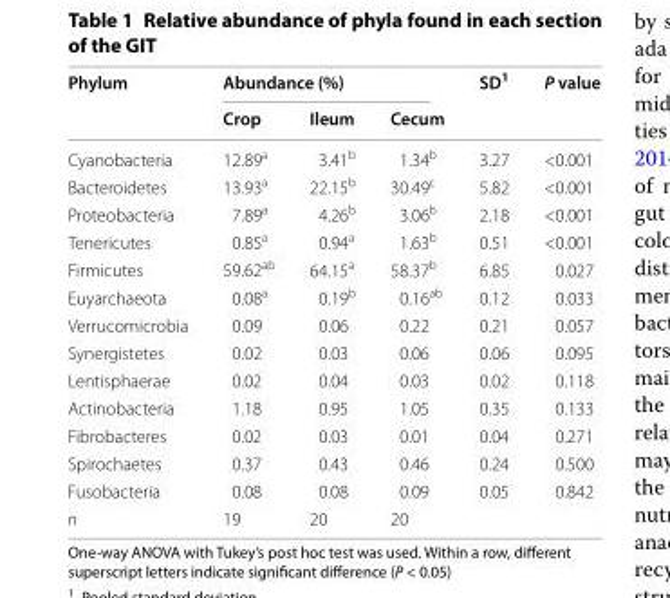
<table><thead><tr><td rowspan="2">Phylum</td><td colspan="3">Abundance (%)</td><td rowspan="2">SD<sup>1</sup></td><td rowspan="2">P value</td></tr><tr><td>Crop</td><td>Ileum</td><td>Cecum</td></tr></thead><tbody><tr><td>Cyanobacteria</td><td>12.89<sup>a</sup></td><td>3.41<sup>b</sup></td><td>1.34<sup>b</sup></td><td>3.27</td><td>&lt;0.001</td></tr><tr><td>Bacteroidetes</td><td>13.93<sup>a</sup></td><td>22.15<sup>b</sup></td><td>30.49<sup>c</sup></td><td>5.82</td><td>&lt;0.001</td></tr><tr><td>Proteobacteria</td><td>7.89<sup>a</sup></td><td>4.26<sup>b</sup></td><td>3.06<sup>b</sup></td><td>2.18</td><td>&lt;0.001</td></tr><tr><td>Tenericutes</td><td>0.85<sup>a</sup></td><td>0.94<sup>a</sup></td><td>1.63<sup>b</sup></td><td>0.51</td><td>&lt;0.001</td></tr><tr><td>Firmicutes</td><td>59.62<sup>ab</sup></td><td>64.15<sup>a</sup></td><td>58.37<sup>b</sup></td><td>6.85</td><td>0.027</td></tr><tr><td>Euyarchaeota</td><td>0.08<sup>a</sup></td><td>0.19<sup>b</sup></td><td>0.16<sup>ab</sup></td><td>0.12</td><td>0.033</td></tr><tr><td>Verrucomicrobia</td><td>0.09</td><td>0.06</td><td>0.22</td><td>0.21</td><td>0.057</td></tr><tr><td>Synergistetes</td><td>0.02</td><td>0.03</td><td>0.06</td><td>0.06</td><td>0.095</td></tr><tr><td>Lentisphaerae</td><td>0.02</td><td>0.04</td><td>0.03</td><td>0.02</td><td>0.118</td></tr><tr><td>Actinobacteria</td><td>1.18</td><td>0.95</td><td>1.05</td><td>0.35</td><td>0.133</td></tr><tr><td>Fibrobacteres</td><td>0.02</td><td>0.03</td><td>0.01</td><td>0.04</td><td>0.271</td></tr><tr><td>Spirochaetes</td><td>0.37</td><td>0.43</td><td>0.46</td><td>0.24</td><td>0.500</td></tr><tr><td>Fusobacteria</td><td>0.08</td><td>0.08</td><td>0.09</td><td>0.05</td><td>0.842</td></tr><tr><td>n</td><td>19</td><td>20</td><td>20</td><td></td><td></td></tr></tbody></table>